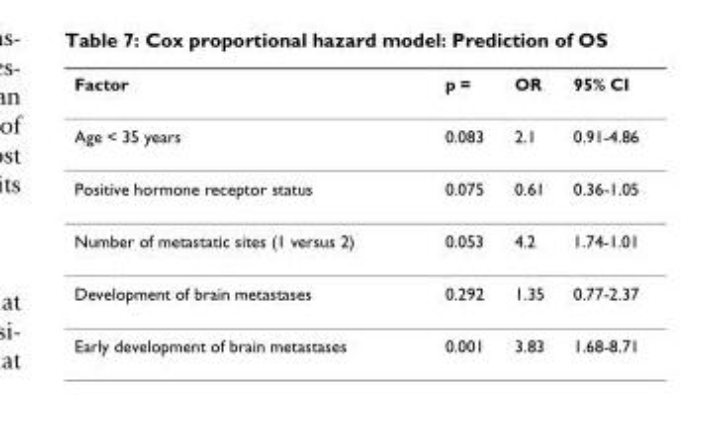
<table><thead><tr><td>Factor</td><td>p =</td><td>OR</td><td>95% CI</td></tr></thead><tbody><tr><td>Age &lt; 35 years</td><td>0.083</td><td>2.1</td><td>0.91-4.86</td></tr><tr><td>Positive hormone receptor status</td><td>0.075</td><td>0.61</td><td>0.36-1.05</td></tr><tr><td>Number of metastatic sites (1 versus 2)</td><td>0.053</td><td>4.2</td><td>1.74-1.01</td></tr><tr><td>Development of brain metastases</td><td>0.292</td><td>1.35</td><td>0.77-2.37</td></tr><tr><td>Early development of brain metastases</td><td>0.001</td><td>3.83</td><td>1.68-8.71</td></tr></tbody></table>